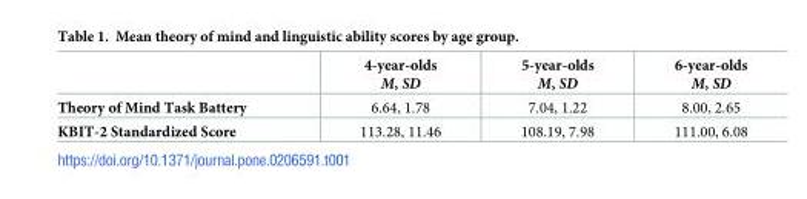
<table><thead><tr><td></td><td>4-year-olds M, SD</td><td>5-year-olds M, SD</td><td>6-year-olds M, SD</td></tr></thead><tbody><tr><td>Theory of Mind Task Battery</td><td>6.64, 1.78</td><td>7.04, 1.22</td><td>8.00, 2.65</td></tr><tr><td>KBIT-2 Standardized Score</td><td>113.28, 11.46</td><td>108.19, 7.98</td><td>111.00, 6.08</td></tr></tbody></table>